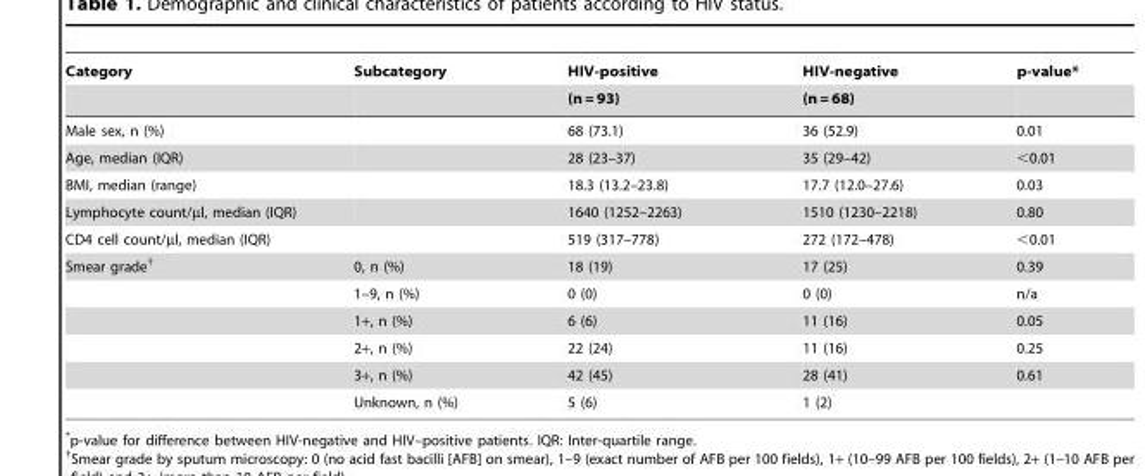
<table><thead><tr><td rowspan="2">Category</td><td rowspan="2">Subcategory</td><td rowspan="2">HIV-positive (n = 93)</td><td rowspan="2">HIV-negative (n = 68)</td><td rowspan="2">p-value*</td></tr><tr></tr></thead><tbody><tr><td>Male sex, n (%)</td><td></td><td>68 (73.1)</td><td>36 (52.9)</td><td>0.01</td></tr><tr><td>Age, median (IQR)</td><td></td><td>28 (23–37)</td><td>35 (29–42)</td><td>&lt;0.01</td></tr><tr><td>BMI, median (range)</td><td></td><td>18.3 (13.2–23.8)</td><td>17.7 (12.0–27.6)</td><td>0.03</td></tr><tr><td>Lymphocyte count/µl, median (IQR)</td><td></td><td>1640 (1252–2263)</td><td>1510 (1230–2218)</td><td>0.80</td></tr><tr><td>CD4 cell count/µl, median (IQR)</td><td></td><td>519 (317–778)</td><td>272 (172–478)</td><td>&lt;0.01</td></tr><tr><td rowspan="6">Smear grade†</td><td>0, n (%)</td><td>18 (19)</td><td>17 (25)</td><td>0.39</td></tr><tr><td>1–9, n (%)</td><td>0 (0)</td><td>0 (0)</td><td>n/a</td></tr><tr><td>1+, n (%)</td><td>6 (6)</td><td>11 (16)</td><td>0.05</td></tr><tr><td>2+, n (%)</td><td>22 (24)</td><td>11 (16)</td><td>0.25</td></tr><tr><td>3+, n (%)</td><td>42 (45)</td><td>28 (41)</td><td>0.61</td></tr><tr><td>Unknown, n (%)</td><td>5 (6)</td><td>1 (2)</td><td></td></tr></tbody></table>